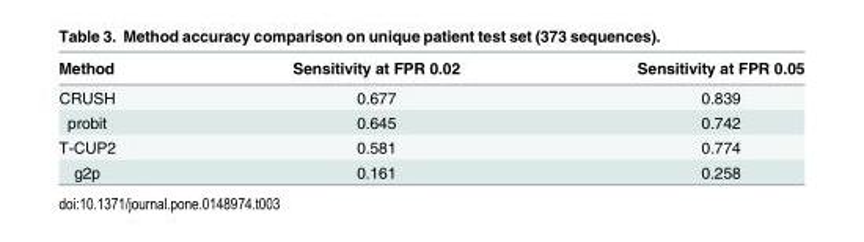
<table><thead><tr><td>Method</td><td>Sensitivity at FPR 0.02</td><td>Sensitivity at FPR 0.05</td></tr></thead><tbody><tr><td>CRUSH</td><td>0.677</td><td>0.839</td></tr><tr><td>probit</td><td>0.645</td><td>0.742</td></tr><tr><td>T-CUP2</td><td>0.581</td><td>0.774</td></tr><tr><td>g2p</td><td>0.161</td><td>0.258</td></tr></tbody></table>